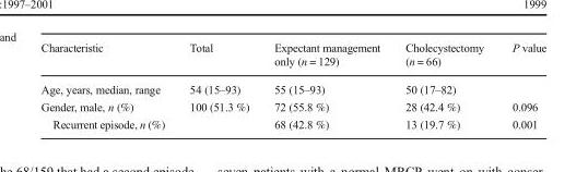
<table><thead><tr><td>Characteristic</td><td>Total</td><td>Expectant management only (n = 129)</td><td>Cholecystectomy (n = 66)</td><td>P value</td></tr></thead><tbody><tr><td>Age, years, median, range</td><td>54 (15–93)</td><td>55 (15–93)</td><td>50 (17–82)</td><td></td></tr><tr><td>Gender, male, n (%)</td><td>100 (51.3 %)</td><td>72 (55.8 %)</td><td>28 (42.4 %)</td><td>0.096</td></tr><tr><td>Recurrent episode, n (%)</td><td></td><td>68 (42.8 %)</td><td>13 (19.7 %)</td><td>0.001</td></tr></tbody></table>